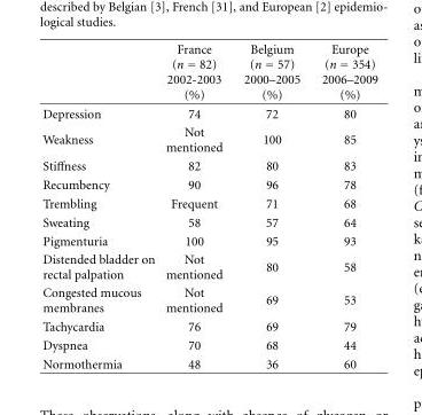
<table><thead><tr><td></td><td>France (n = 82) 2002-2003 (%)</td><td>Belgium (n = 57) 2000–2005 (%)</td><td>Europe (n = 354) 2006–2009 (%)</td></tr></thead><tbody><tr><td>Depression</td><td>74</td><td>72</td><td>80</td></tr><tr><td>Weakness</td><td>Not mentioned</td><td>100</td><td>85</td></tr><tr><td>Stiffness</td><td>82</td><td>80</td><td>83</td></tr><tr><td>Recumbency</td><td>90</td><td>96</td><td>78</td></tr><tr><td>Trembling</td><td>Frequent</td><td>71</td><td>68</td></tr><tr><td>Sweating</td><td>58</td><td>57</td><td>64</td></tr><tr><td>Pigmenturia</td><td>100</td><td>95</td><td>93</td></tr><tr><td>Distended bladder on rectal palpation</td><td>Not mentioned</td><td>80</td><td>58</td></tr><tr><td>Congested mucous membranes</td><td>Not mentioned</td><td>69</td><td>53</td></tr><tr><td>Tachycardia</td><td>76</td><td>69</td><td>79</td></tr><tr><td>Dyspnea</td><td>70</td><td>68</td><td>44</td></tr><tr><td>Normothermia</td><td>48</td><td>36</td><td>60</td></tr></tbody></table>